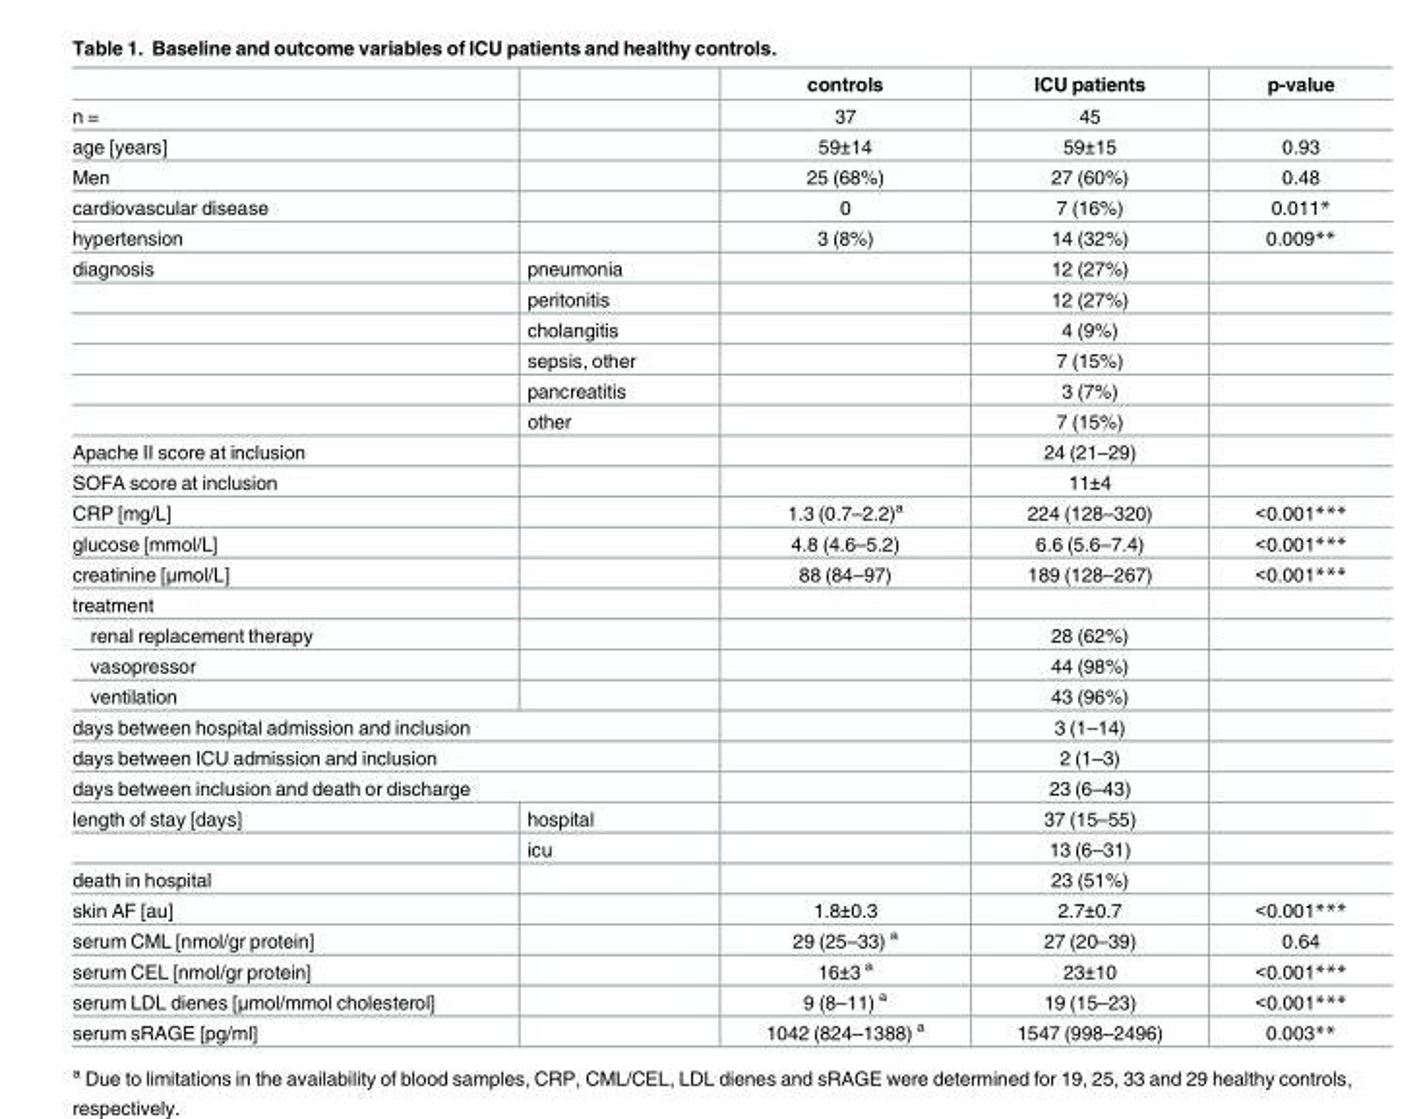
<table><thead><tr><td></td><td></td><td>controls</td><td>ICU patients</td><td>p-value</td></tr></thead><tbody><tr><td>n =</td><td></td><td>37</td><td>45</td><td></td></tr><tr><td>age [years]</td><td></td><td>59±14</td><td>59±15</td><td>0.93</td></tr><tr><td>Men</td><td></td><td>25 (68%)</td><td>27 (60%)</td><td>0.48</td></tr><tr><td>cardiovascular disease</td><td></td><td>0</td><td>7 (16%)</td><td>0.011*</td></tr><tr><td>hypertension</td><td></td><td>3 (8%)</td><td>14 (32%)</td><td>0.009**</td></tr><tr><td rowspan="6">diagnosis</td><td>pneumonia</td><td></td><td>12 (27%)</td><td></td></tr><tr><td>peritonitis</td><td></td><td>12 (27%)</td><td></td></tr><tr><td>cholangitis</td><td></td><td>4 (9%)</td><td></td></tr><tr><td>sepsis, other</td><td></td><td>7 (15%)</td><td></td></tr><tr><td>pancreatitis</td><td></td><td>3 (7%)</td><td></td></tr><tr><td>other</td><td></td><td>7 (15%)</td><td></td></tr><tr><td>Apache II score at inclusion</td><td></td><td></td><td>24 (21–29)</td><td></td></tr><tr><td>SOFA score at inclusion</td><td></td><td></td><td>11±4</td><td></td></tr><tr><td>CRP [mg/L]</td><td></td><td>1.3 (0.7–2.2)<sup>a</sup></td><td>224 (128–320)</td><td>&lt;0.001***</td></tr><tr><td>glucose [mmol/L]</td><td></td><td>4.8 (4.6–5.2)</td><td>6.6 (5.6–7.4)</td><td>&lt;0.001***</td></tr><tr><td>creatinine [μmol/L]</td><td></td><td>88 (84–97)</td><td>189 (128–267)</td><td>&lt;0.001***</td></tr><tr><td colspan="5">treatment</td></tr><tr><td>renal replacement therapy</td><td></td><td></td><td>28 (62%)</td><td></td></tr><tr><td>vasopressor</td><td></td><td></td><td>44 (98%)</td><td></td></tr><tr><td>ventilation</td><td></td><td></td><td>43 (96%)</td><td></td></tr><tr><td colspan="2">days between hospital admission and inclusion</td><td></td><td>3 (1–14)</td><td></td></tr><tr><td colspan="2">days between ICU admission and inclusion</td><td></td><td>2 (1–3)</td><td></td></tr><tr><td colspan="2">days between inclusion and death or discharge</td><td></td><td>23 (6–43)</td><td></td></tr><tr><td rowspan="2">length of stay [days]</td><td>hospital</td><td></td><td>37 (15–55)</td><td></td></tr><tr><td>icu</td><td></td><td>13 (6–31)</td><td></td></tr><tr><td>death in hospital</td><td></td><td></td><td>23 (51%)</td><td></td></tr><tr><td>skin AF [au]</td><td></td><td>1.8±0.3</td><td>2.7±0.7</td><td>&lt;0.001***</td></tr><tr><td>serum CML [nmol/gr protein]</td><td></td><td>29 (25–33) <sup>a</sup></td><td>27 (20–39)</td><td>0.64</td></tr><tr><td>serum CEL [nmol/gr protein]</td><td></td><td>16±3 <sup>a</sup></td><td>23±10</td><td>&lt;0.001***</td></tr><tr><td>serum LDL dienes [μmol/mmol cholesterol]</td><td></td><td>9 (8–11) <sup>a</sup></td><td>19 (15–23)</td><td>&lt;0.001***</td></tr><tr><td>serum sRAGE [pg/ml]</td><td></td><td>1042 (824–1388) <sup>a</sup></td><td>1547 (998–2496)</td><td>0.003**</td></tr></tbody></table>